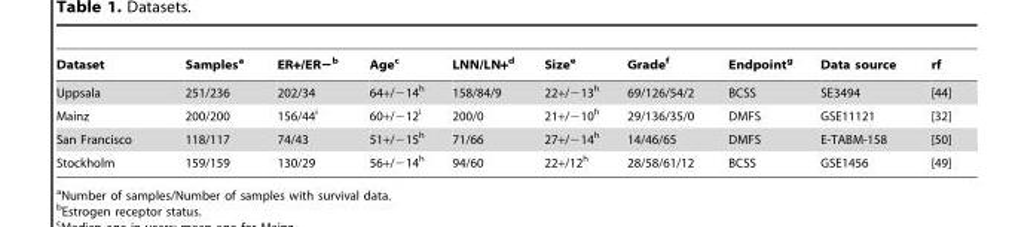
<table><thead><tr><td>Dataset</td><td>Samples<sup>a</sup></td><td>ER+/ER−b</td><td>Age<sup>c</sup></td><td>LNN/LN+<sup>d</sup></td><td>Size<sup>e</sup></td><td>Grade<sup>f</sup></td><td>Endpoint<sup>g</sup></td><td>Data source</td><td>rf</td></tr></thead><tbody><tr><td>Uppsala</td><td>251/236</td><td>202/34</td><td>64+/−14<sup>h</sup></td><td>158/84/9</td><td>22+/−13<sup>h</sup></td><td>69/126/54/2</td><td>BCSS</td><td>SE3494</td><td>[44]</td></tr><tr><td>Mainz</td><td>200/200</td><td>156/44<sup>i</sup></td><td>60+/−12<sup>i</sup></td><td>200/0</td><td>21+/−10<sup>h</sup></td><td>29/136/35/0</td><td>DMFS</td><td>GSE11121</td><td>[32]</td></tr><tr><td>San Francisco</td><td>118/117</td><td>74/43</td><td>51+/−15<sup>h</sup></td><td>71/66</td><td>27+/−14<sup>h</sup></td><td>14/46/65</td><td>DMFS</td><td>E-TABM-158</td><td>[50]</td></tr><tr><td>Stockholm</td><td>159/159</td><td>130/29</td><td>56+/−14<sup>h</sup></td><td>94/60</td><td>22+/12<sup>h</sup></td><td>28/58/61/12</td><td>BCSS</td><td>GSE1456</td><td>[49]</td></tr></tbody></table>